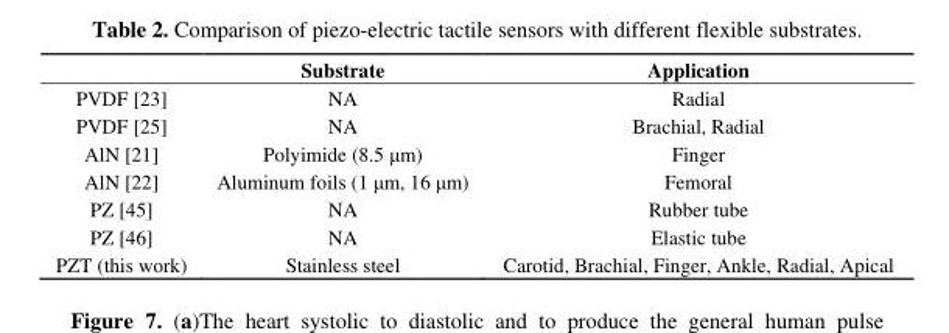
<table><thead><tr><td></td><td>Substrate</td><td>Application</td></tr></thead><tbody><tr><td>PVDF [23]</td><td>NA</td><td>Radial</td></tr><tr><td>PVDF [25]</td><td>NA</td><td>Brachial, Radial</td></tr><tr><td>AlN [21]</td><td>Polyimide (8.5 μm)</td><td>Finger</td></tr><tr><td>AlN [22]</td><td>Aluminum foils (1 μm, 16 μm)</td><td>Femoral</td></tr><tr><td>PZ [45]</td><td>NA</td><td>Rubber tube</td></tr><tr><td>PZ [46]</td><td>NA</td><td>Elastic tube</td></tr><tr><td>PZT (this work)</td><td>Stainless steel</td><td>Carotid, Brachial, Finger, Ankle, Radial, Apical</td></tr></tbody></table>